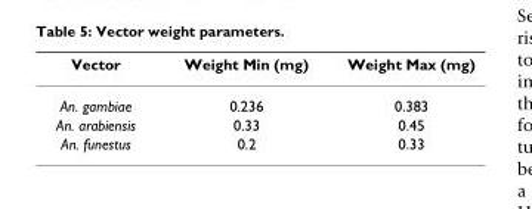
<table><thead><tr><td>Vector</td><td>Weight Min (mg)</td><td>Weight Max (mg)</td></tr></thead><tbody><tr><td>An. gambiae</td><td>0.236</td><td>0.383</td></tr><tr><td>An. arabiensis</td><td>0.33</td><td>0.45</td></tr><tr><td>An. funestus</td><td>0.2</td><td>0.33</td></tr></tbody></table>